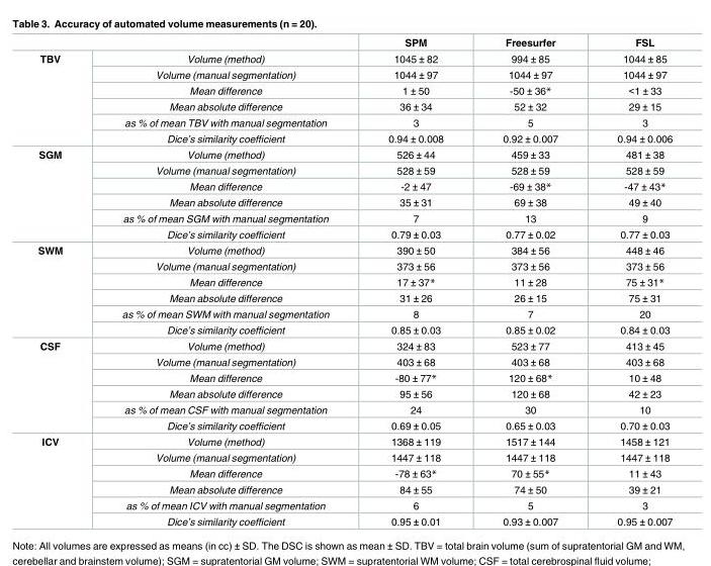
<table><thead><tr><td></td><td></td><td>SPM</td><td>Freesurfer</td><td>FSL</td></tr></thead><tbody><tr><td rowspan="6">TBV</td><td>Volume (method)</td><td>1045 ± 82</td><td>994 ± 85</td><td>1044 ± 85</td></tr><tr><td>Volume (manual segmentation)</td><td>1044 ± 97</td><td>1044 ± 97</td><td>1044 ± 97</td></tr><tr><td>Mean difference</td><td>1 ± 50</td><td>-50 ± 36*</td><td>&lt;1 ± 33</td></tr><tr><td>Mean absolute difference</td><td>36 ± 34</td><td>52 ± 32</td><td>29 ± 15</td></tr><tr><td>as % of mean TBV with manual segmentation</td><td>3</td><td>5</td><td>3</td></tr><tr><td>Dice’s similarity coefficient</td><td>0.94 ± 0.008</td><td>0.92 ± 0.007</td><td>0.94 ± 0.006</td></tr><tr><td rowspan="6">SGM</td><td>Volume (method)</td><td>526 ± 44</td><td>459 ± 33</td><td>481 ± 38</td></tr><tr><td>Volume (manual segmentation)</td><td>528 ± 59</td><td>528 ± 59</td><td>528 ± 59</td></tr><tr><td>Mean difference</td><td>-2 ± 47</td><td>-69 ± 38*</td><td>-47 ± 43*</td></tr><tr><td>Mean absolute difference</td><td>35 ± 31</td><td>69 ± 38</td><td>49 ± 40</td></tr><tr><td>as % of mean SGM with manual segmentation</td><td>7</td><td>13</td><td>9</td></tr><tr><td>Dice’s similarity coefficient</td><td>0.79 ± 0.03</td><td>0.77 ± 0.02</td><td>0.77 ± 0.03</td></tr><tr><td rowspan="6">SWM</td><td>Volume (method)</td><td>390 ± 50</td><td>384 ± 56</td><td>448 ± 46</td></tr><tr><td>Volume (manual segmentation)</td><td>373 ± 56</td><td>373 ± 56</td><td>373 ± 56</td></tr><tr><td>Mean difference</td><td>17 ± 37*</td><td>11 ± 28</td><td>75 ± 31*</td></tr><tr><td>Mean absolute difference</td><td>31 ± 26</td><td>26 ± 15</td><td>75 ± 31</td></tr><tr><td>as % of mean SWM with manual segmentation</td><td>8</td><td>7</td><td>20</td></tr><tr><td>Dice’s similarity coefficient</td><td>0.85 ± 0.03</td><td>0.85 ± 0.02</td><td>0.84 ± 0.03</td></tr><tr><td rowspan="6">CSF</td><td>Volume (method)</td><td>324 ± 83</td><td>523 ± 77</td><td>413 ± 45</td></tr><tr><td>Volume (manual segmentation)</td><td>403 ± 68</td><td>403 ± 68</td><td>403 ± 68</td></tr><tr><td>Mean difference</td><td>-80 ± 77*</td><td>120 ± 68*</td><td>10 ± 48</td></tr><tr><td>Mean absolute difference</td><td>95 ± 56</td><td>120 ± 68</td><td>42 ± 23</td></tr><tr><td>as % of mean CSF with manual segmentation</td><td>24</td><td>30</td><td>10</td></tr><tr><td>Dice’s similarity coefficient</td><td>0.69 ± 0.05</td><td>0.65 ± 0.03</td><td>0.70 ± 0.03</td></tr><tr><td rowspan="6">ICV</td><td>Volume (method)</td><td>1368 ± 119</td><td>1517 ± 144</td><td>1458 ± 121</td></tr><tr><td>Volume (manual segmentation)</td><td>1447 ± 118</td><td>1447 ± 118</td><td>1447 ± 118</td></tr><tr><td>Mean difference</td><td>-78 ± 63*</td><td>70 ± 55*</td><td>11 ± 43</td></tr><tr><td>Mean absolute difference</td><td>84 ± 55</td><td>74 ± 50</td><td>39 ± 21</td></tr><tr><td>as % of mean ICV with manual segmentation</td><td>6</td><td>5</td><td>3</td></tr><tr><td>Dice’s similarity coefficient</td><td>0.95 ± 0.01</td><td>0.93 ± 0.007</td><td>0.95 ± 0.007</td></tr></tbody></table>